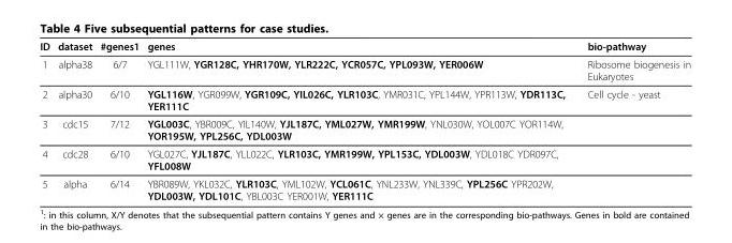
<table><thead><tr><td>ID</td><td>dataset</td><td>#genes1</td><td>genes</td><td>bio-pathway</td></tr></thead><tbody><tr><td>1</td><td>alpha38</td><td>6/7</td><td>YGL111W, YGR128C, YHR170W, YLR222C, YCR057C, YPL093W, YER006W</td><td>Ribosome biogenesis in Eukaryotes</td></tr><tr><td>2</td><td>alpha30</td><td>6/10</td><td>YGL116W, YGR099W, YGR109C, YIL026C, YLR103C, YMR031C, YPL144W, YPR113W, YDR113C, YER111C</td><td>Cell cycle - yeast</td></tr><tr><td>3</td><td>cdc15</td><td>7/12</td><td>YGL003C, YBR009C, YIL140W, YJL187C, YML027W, YMR199W, YNL030W, YOL007C YOR114W, YOR195W, YPL256C, YDL003W</td><td></td></tr><tr><td>4</td><td>cdc28</td><td>6/10</td><td>YGL027C, YJL187C, YLL022C, YLR103C, YMR199W, YPL153C, YDL003W, YDL018C YDR097C, YFL008W</td><td></td></tr><tr><td>5</td><td>alpha</td><td>6/14</td><td>YBR089W, YKL032C, YLR103C, YML102W, YCL061C, YNL233W, YNL339C, YPL256C YPR202W, YDL003W, YDL101C, YBL003C YER001W, YER111C</td><td></td></tr></tbody></table>